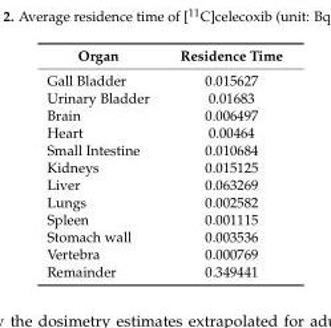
<table><thead><tr><td>Organ</td><td>Residence Time</td></tr></thead><tbody><tr><td>Gall Bladder</td><td>0.015627</td></tr><tr><td>Urinary Bladder</td><td>0.01683</td></tr><tr><td>Brain</td><td>0.006497</td></tr><tr><td>Heart</td><td>0.00464</td></tr><tr><td>Small Intestine</td><td>0.010684</td></tr><tr><td>Kidneys</td><td>0.015125</td></tr><tr><td>Liver</td><td>0.063269</td></tr><tr><td>Lungs</td><td>0.002582</td></tr><tr><td>Spleen</td><td>0.001115</td></tr><tr><td>Stomach wall</td><td>0.003536</td></tr><tr><td>Vertebra</td><td>0.000769</td></tr><tr><td>Remainder</td><td>0.349441</td></tr></tbody></table>